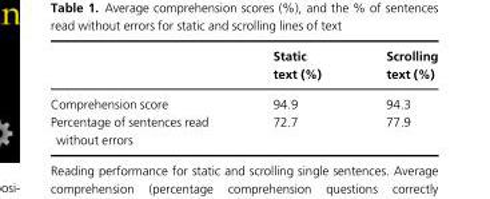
<table><thead><tr><td></td><td>Static text (%)</td><td>Scrolling text (%)</td></tr></thead><tbody><tr><td>Comprehension score</td><td>94.9</td><td>94.3</td></tr><tr><td>Percentage of sentences read without errors</td><td>72.7</td><td>77.9</td></tr></tbody></table>